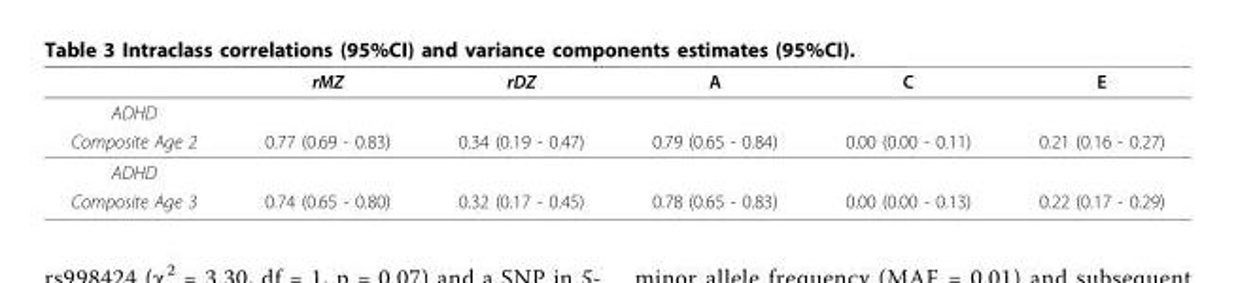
<table><thead><tr><td></td><td>rMZ</td><td>rDZ</td><td>A</td><td>C</td><td>E</td></tr></thead><tbody><tr><td colspan="6">ADHD</td></tr><tr><td>Composite Age 2</td><td>0.77 (0.69 - 0.83)</td><td>0.34 (0.19 - 0.47)</td><td>0.79 (0.65 - 0.84)</td><td>0.00 (0.00 - 0.11)</td><td>0.21 (0.16 - 0.27)</td></tr><tr><td colspan="6">ADHD</td></tr><tr><td>Composite Age 3</td><td>0.74 (0.65 - 0.80)</td><td>0.32 (0.17 - 0.45)</td><td>0.78 (0.65 - 0.83)</td><td>0.00 (0.00 - 0.13)</td><td>0.22 (0.17 - 0.29)</td></tr></tbody></table>